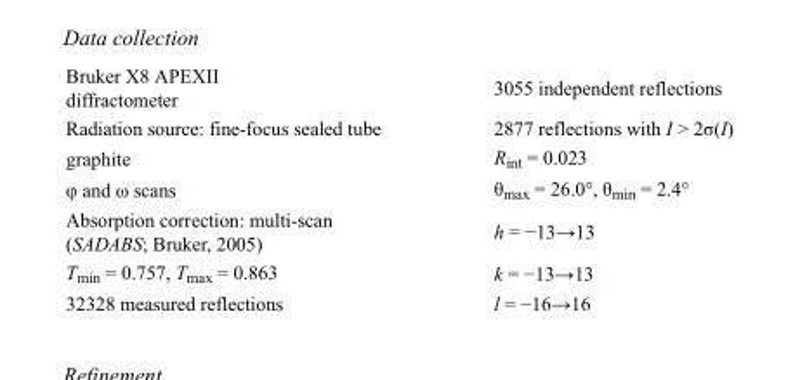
<table><tbody><tr><td>Bruker X8 APEXII diffractometer</td><td>3055 independent reflections</td></tr><tr><td>Radiation source: fine-focus sealed tube</td><td>2877 reflections with I &gt; 2σ(I)</td></tr><tr><td>graphite</td><td>R<sub>int</sub> = 0.023</td></tr><tr><td>φ and ω scans</td><td>θ<sub>max</sub> = 26.0°, θ<sub>min</sub> = 2.4°</td></tr><tr><td>Absorption correction: multi-scan (SADABS; Bruker, 2005)</td><td>h = −13→13</td></tr><tr><td>T<sub>min</sub> = 0.757, T<sub>max</sub> = 0.863</td><td>k = −13→13</td></tr><tr><td>32328 measured reflections</td><td>l = −16→16</td></tr></tbody></table>